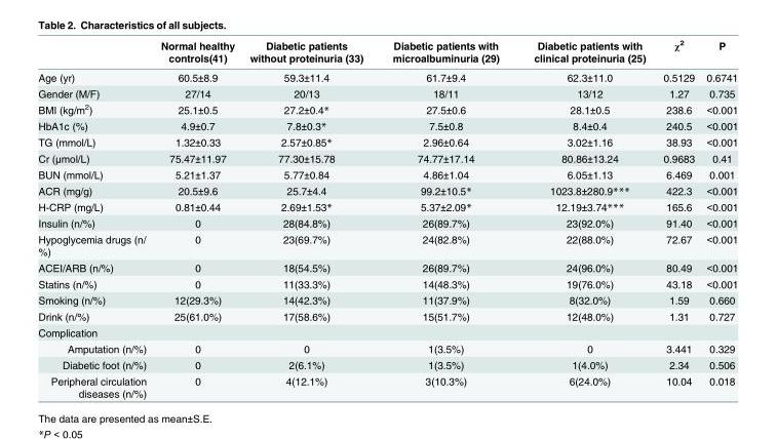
<table><thead><tr><td></td><td>Normal healthy controls(41)</td><td>Diabetic patients without proteinuria (33)</td><td>Diabetic patients with microalbuminuria (29)</td><td>Diabetic patients with clinical proteinuria (25)</td><td>χ<sup>2</sup></td><td>P</td></tr></thead><tbody><tr><td>Age (yr)</td><td>60.5±8.9</td><td>59.3±11.4</td><td>61.7±9.4</td><td>62.3±11.0</td><td>0.5129</td><td>0.6741</td></tr><tr><td>Gender (M/F)</td><td>27/14</td><td>20/13</td><td>18/11</td><td>13/12</td><td>1.27</td><td>0.735</td></tr><tr><td>BMI (kg/m<sup>2</sup>)</td><td>25.1±0.5</td><td>27.2±0.4*</td><td>27.5±0.6</td><td>28.1±0.5</td><td>238.6</td><td>&lt;0.001</td></tr><tr><td>HbA1c (%)</td><td>4.9±0.7</td><td>7.8±0.3*</td><td>7.5±0.8</td><td>8.4±0.4</td><td>240.5</td><td>&lt;0.001</td></tr><tr><td>TG (mmol/L)</td><td>1.32±0.33</td><td>2.57±0.85*</td><td>2.96±0.64</td><td>3.02±1.16</td><td>38.93</td><td>&lt;0.001</td></tr><tr><td>Cr (μmol/L)</td><td>75.47±11.97</td><td>77.30±15.78</td><td>74.77±17.14</td><td>80.86±13.24</td><td>0.9683</td><td>0.41</td></tr><tr><td>BUN (mmol/L)</td><td>5.21±1.37</td><td>5.77±0.84</td><td>4.86±1.04</td><td>6.05±1.13</td><td>6.469</td><td>0.001</td></tr><tr><td>ACR (mg/g)</td><td>20.5±9.6</td><td>25.7±4.4</td><td>99.2±10.5*</td><td>1023.8±280.9***</td><td>422.3</td><td>&lt;0.001</td></tr><tr><td>H-CRP (mg/L)</td><td>0.81±0.44</td><td>2.69±1.53*</td><td>5.37±2.09*</td><td>12.19±3.74***</td><td>165.6</td><td>&lt;0.001</td></tr><tr><td>Insulin (n/%)</td><td>0</td><td>28(84.8%)</td><td>26(89.7%)</td><td>23(92.0%)</td><td>91.40</td><td>&lt;0.001</td></tr><tr><td>Hypoglycemia drugs (n/ %)</td><td>0</td><td>23(69.7%)</td><td>24(82.8%)</td><td>22(88.0%)</td><td>72.67</td><td>&lt;0.001</td></tr><tr><td>ACEI/ARB (n/%)</td><td>0</td><td>18(54.5%)</td><td>26(89.7%)</td><td>24(96.0%)</td><td>80.49</td><td>&lt;0.001</td></tr><tr><td>Statins (n/%)</td><td>0</td><td>11(33.3%)</td><td>14(48.3%)</td><td>19(76.0%)</td><td>43.18</td><td>&lt;0.001</td></tr><tr><td>Smoking (n/%)</td><td>12(29.3%)</td><td>14(42.3%)</td><td>11(37.9%)</td><td>8(32.0%)</td><td>1.59</td><td>0.660</td></tr><tr><td>Drink (n/%)</td><td>25(61.0%)</td><td>17(58.6%)</td><td>15(51.7%)</td><td>12(48.0%)</td><td>1.31</td><td>0.727</td></tr><tr><td colspan="7">Complication</td></tr><tr><td>Amputation (n/%)</td><td>0</td><td>0</td><td>1(3.5%)</td><td>0</td><td>3.441</td><td>0.329</td></tr><tr><td>Diabetic foot (n/%)</td><td>0</td><td>2(6.1%)</td><td>1(3.5%)</td><td>1(4.0%)</td><td>2.34</td><td>0.506</td></tr><tr><td>Peripheral circulation diseases (n/%)</td><td>0</td><td>4(12.1%)</td><td>3(10.3%)</td><td>6(24.0%)</td><td>10.04</td><td>0.018</td></tr></tbody></table>